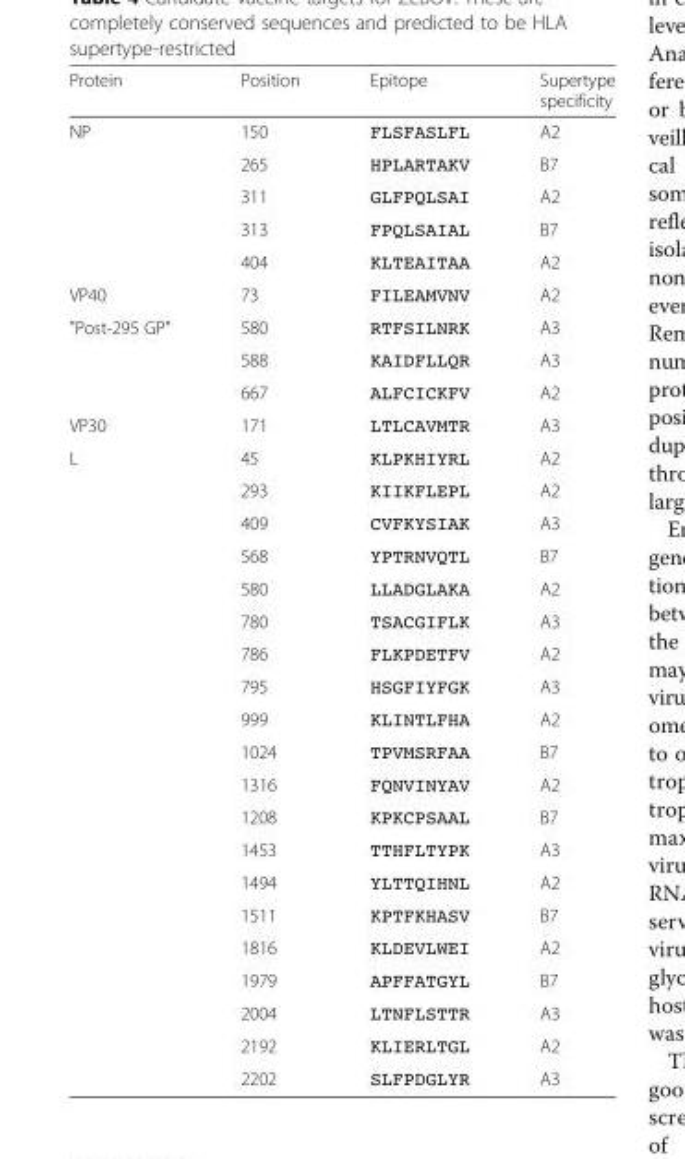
<table><thead><tr><td>Protein</td><td>Position</td><td>Epitope</td><td>Supertype specificity</td></tr></thead><tbody><tr><td rowspan="5">NP</td><td>150</td><td>FLSFASLFL</td><td>A2</td></tr><tr><td>265</td><td>HPLARTAKV</td><td>B7</td></tr><tr><td>311</td><td>GLFPQLSAI</td><td>A2</td></tr><tr><td>313</td><td>FPQLSAIAL</td><td>B7</td></tr><tr><td>404</td><td>KLTEAITAA</td><td>A2</td></tr><tr><td>VP40</td><td>73</td><td>FILEAMVNV</td><td>A2</td></tr><tr><td rowspan="3">&quot;Post-295 GP&quot;</td><td>580</td><td>RTFSILNRK</td><td>A3</td></tr><tr><td>588</td><td>KAIDFLLQR</td><td>A3</td></tr><tr><td>667</td><td>ALFCICKFV</td><td>A2</td></tr><tr><td>VP30</td><td>171</td><td>LTLCAVMTR</td><td>A3</td></tr><tr><td rowspan="20">L</td><td>45</td><td>KLPKHIYRL</td><td>A2</td></tr><tr><td>293</td><td>KIIKFLEPL</td><td>A2</td></tr><tr><td>409</td><td>CVFKYSIAK</td><td>A3</td></tr><tr><td>568</td><td>YPTRNVQTL</td><td>B7</td></tr><tr><td>580</td><td>LLADGLAKA</td><td>A2</td></tr><tr><td>780</td><td>TSACGIFLK</td><td>A3</td></tr><tr><td>786</td><td>FLKPDETFV</td><td>A2</td></tr><tr><td>795</td><td>HSGFIYFGK</td><td>A3</td></tr><tr><td>999</td><td>KLINTLFHA</td><td>A2</td></tr><tr><td>1024</td><td>TPVMSRFAA</td><td>B7</td></tr><tr><td>1316</td><td>FQNVINYAV</td><td>A2</td></tr><tr><td>1208</td><td>KPKCPSAAL</td><td>B7</td></tr><tr><td>1453</td><td>TTHFLTYPK</td><td>A3</td></tr><tr><td>1494</td><td>YLTTQIHNL</td><td>A2</td></tr><tr><td>1511</td><td>KPTFKHASV</td><td>B7</td></tr><tr><td>1816</td><td>KLDEVLWEI</td><td>A2</td></tr><tr><td>1979</td><td>APFFATGYL</td><td>B7</td></tr><tr><td>2004</td><td>LTNFLSTTR</td><td>A3</td></tr><tr><td>2192</td><td>KLIERLTGL</td><td>A2</td></tr><tr><td>2202</td><td>SLFPDGLYR</td><td>A3</td></tr></tbody></table>